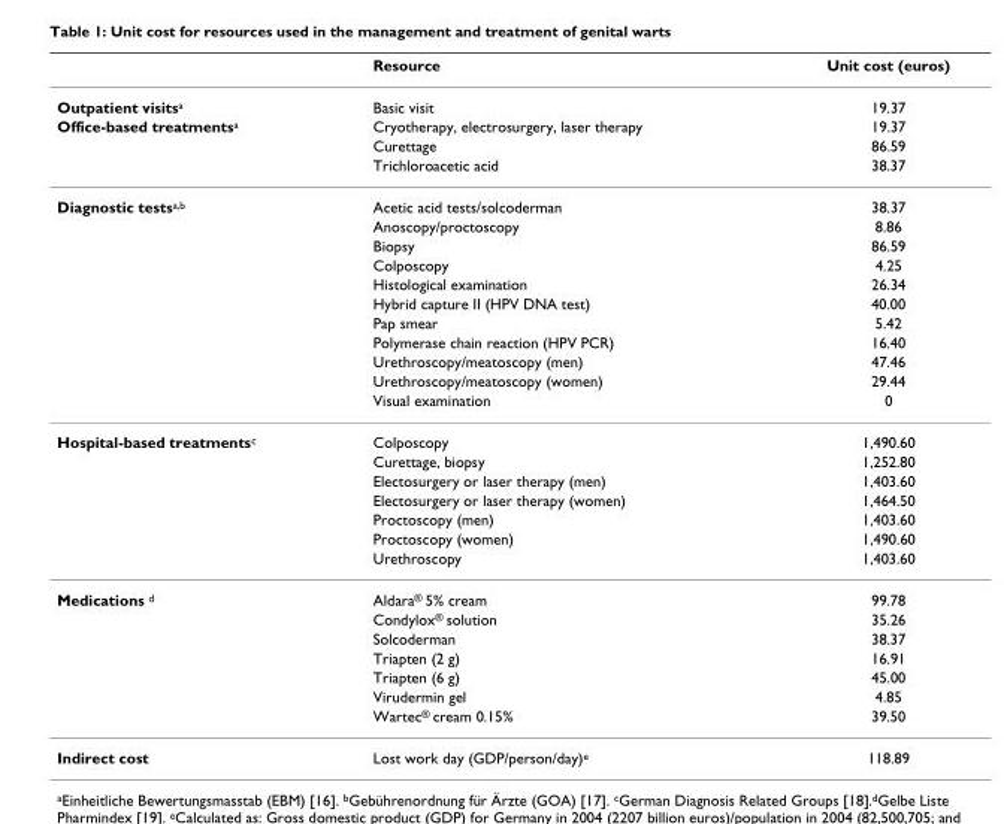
<table><thead><tr><td></td><td>Resource</td><td>Unit cost (euros)</td></tr></thead><tbody><tr><td>Outpatient visits<sup>a</sup></td><td>Basic visit</td><td>19.37</td></tr><tr><td rowspan="3">Office-based treatments<sup>a</sup></td><td>Cryotherapy, electrosurgery, laser therapy</td><td>19.37</td></tr><tr><td>Curettage</td><td>86.59</td></tr><tr><td>Trichloroacetic acid</td><td>38.37</td></tr><tr><td rowspan="11">Diagnostic tests<sup>a,b</sup></td><td>Acetic acid tests/solcoderman</td><td>38.37</td></tr><tr><td>Anoscopy/proctoscopy</td><td>8.86</td></tr><tr><td>Biopsy</td><td>86.59</td></tr><tr><td>Colposcopy</td><td>4.25</td></tr><tr><td>Histological examination</td><td>26.34</td></tr><tr><td>Hybrid capture II (HPV DNA test)</td><td>40.00</td></tr><tr><td>Pap smear</td><td>5.42</td></tr><tr><td>Polymerase chain reaction (HPV PCR)</td><td>16.40</td></tr><tr><td>Urethroscopy/meatoscopy (men)</td><td>47.46</td></tr><tr><td>Urethroscopy/meatoscopy (women)</td><td>29.44</td></tr><tr><td>Visual examination</td><td>0</td></tr><tr><td rowspan="7">Hospital-based treatments<sup>c</sup></td><td>Colposcopy</td><td>1,490.60</td></tr><tr><td>Curettage, biopsy</td><td>1,252.80</td></tr><tr><td>Electosurgery or laser therapy (men)</td><td>1,403.60</td></tr><tr><td>Electosurgery or laser therapy (women)</td><td>1,464.50</td></tr><tr><td>Proctoscopy (men)</td><td>1,403.60</td></tr><tr><td>Proctoscopy (women)</td><td>1,490.60</td></tr><tr><td>Urethroscopy</td><td>1,403.60</td></tr><tr><td rowspan="7">Medications <sup>d</sup></td><td>Aldara<sup>®</sup> 5% cream</td><td>99.78</td></tr><tr><td>Condylox<sup>®</sup> solution</td><td>35.26</td></tr><tr><td>Solcoderman</td><td>38.37</td></tr><tr><td>Triapten (2 g)</td><td>16.91</td></tr><tr><td>Triapten (6 g)</td><td>45.00</td></tr><tr><td>Virudermin gel</td><td>4.85</td></tr><tr><td>Wartec<sup>®</sup> cream 0.15%</td><td>39.50</td></tr><tr><td>Indirect cost</td><td>Lost work day (GDP/person/day)<sup>e</sup></td><td>118.89</td></tr></tbody></table>